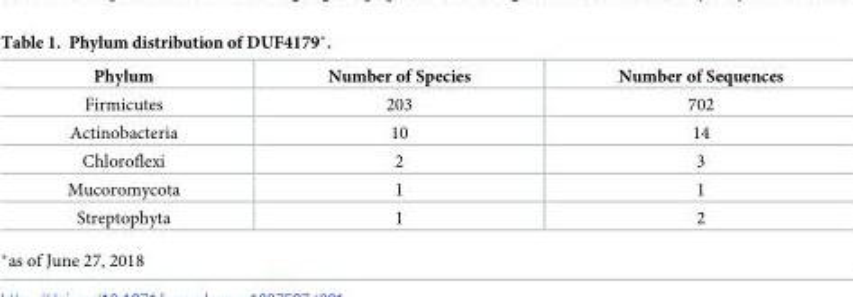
<table><thead><tr><td>Phylum</td><td>Number of Species</td><td>Number of Sequences</td></tr></thead><tbody><tr><td>Firmicutes</td><td>203</td><td>702</td></tr><tr><td>Actinobacteria</td><td>10</td><td>14</td></tr><tr><td>Chloroflexi</td><td>2</td><td>3</td></tr><tr><td>Mucoromycota</td><td>1</td><td>1</td></tr><tr><td>Streptophyta</td><td>1</td><td>2</td></tr></tbody></table>